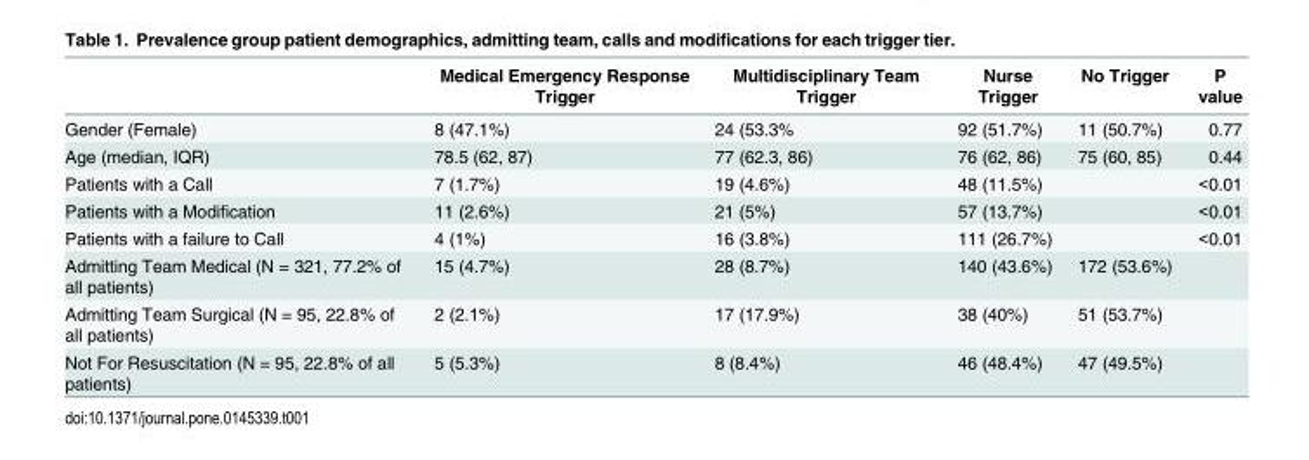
<table><thead><tr><td></td><td>Medical Emergency Response Trigger</td><td>Multidisciplinary Team Trigger</td><td>Nurse Trigger</td><td>No Trigger</td><td>P value</td></tr></thead><tbody><tr><td>Gender (Female)</td><td>8 (47.1%)</td><td>24 (53.3%</td><td>92 (51.7%)</td><td>11 (50.7%)</td><td>0.77</td></tr><tr><td>Age (median, IQR)</td><td>78.5 (62, 87)</td><td>77 (62.3, 86)</td><td>76 (62, 86)</td><td>75 (60, 85)</td><td>0.44</td></tr><tr><td>Patients with a Call</td><td>7 (1.7%)</td><td>19 (4.6%)</td><td>48 (11.5%)</td><td></td><td>&lt;0.01</td></tr><tr><td>Patients with a Modification</td><td>11 (2.6%)</td><td>21 (5%)</td><td>57 (13.7%)</td><td></td><td>&lt;0.01</td></tr><tr><td>Patients with a failure to Call</td><td>4 (1%)</td><td>16 (3.8%)</td><td>111 (26.7%)</td><td></td><td>&lt;0.01</td></tr><tr><td>Admitting Team Medical (N = 321, 77.2% of all patients)</td><td>15 (4.7%)</td><td>28 (8.7%)</td><td>140 (43.6%)</td><td>172 (53.6%)</td><td></td></tr><tr><td>Admitting Team Surgical (N = 95, 22.8% of all patients)</td><td>2 (2.1%)</td><td>17 (17.9%)</td><td>38 (40%)</td><td>51 (53.7%)</td><td></td></tr><tr><td>Not For Resuscitation (N = 95, 22.8% of all patients)</td><td>5 (5.3%)</td><td>8 (8.4%)</td><td>46 (48.4%)</td><td>47 (49.5%)</td><td></td></tr></tbody></table>